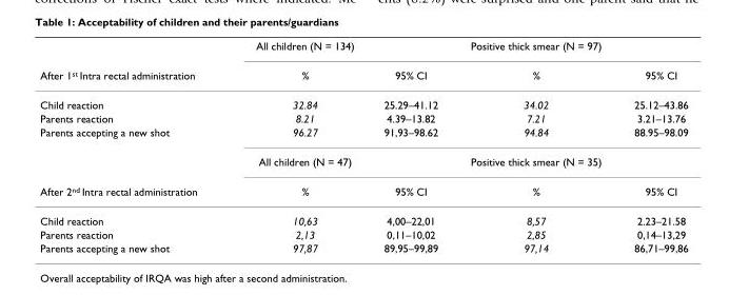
<table><thead><tr><td rowspan="2">After 1<sup>st</sup> Intra rectal administration</td><td rowspan="2">All children (N = 134) %</td><td rowspan="2">95% CI</td><td rowspan="2">Positive thick smear (N = 97) %</td><td rowspan="2">95% CI</td></tr><tr></tr></thead><tbody><tr><td>Child reaction</td><td>32.84</td><td>25.29–41.12</td><td>34.02</td><td>25.12–43.86</td></tr><tr><td>Parents reaction</td><td>8.21</td><td>4.39–13.82</td><td>7.21</td><td>3.21–13.76</td></tr><tr><td rowspan="2">Parents accepting a new shot</td><td>96.27</td><td>91,93–98.62</td><td>94.84</td><td>88.95–98.09</td></tr><tr><td>All children (N = 47)</td><td></td><td>Positive thick smear (N = 35)</td><td></td></tr><tr><td>After 2<sup>nd</sup> Intra rectal administration</td><td>%</td><td>95% CI</td><td>%</td><td>95% CI</td></tr><tr><td>Child reaction</td><td>10,63</td><td>4,00–22,01</td><td>8,57</td><td>2.23–21.58</td></tr><tr><td>Parents reaction</td><td>2,13</td><td>0,11–10,02</td><td>2,85</td><td>0,14–13,29</td></tr><tr><td>Parents accepting a new shot</td><td>97,87</td><td>89,95–99,89</td><td>97,14</td><td>86,71–99,86</td></tr></tbody></table>